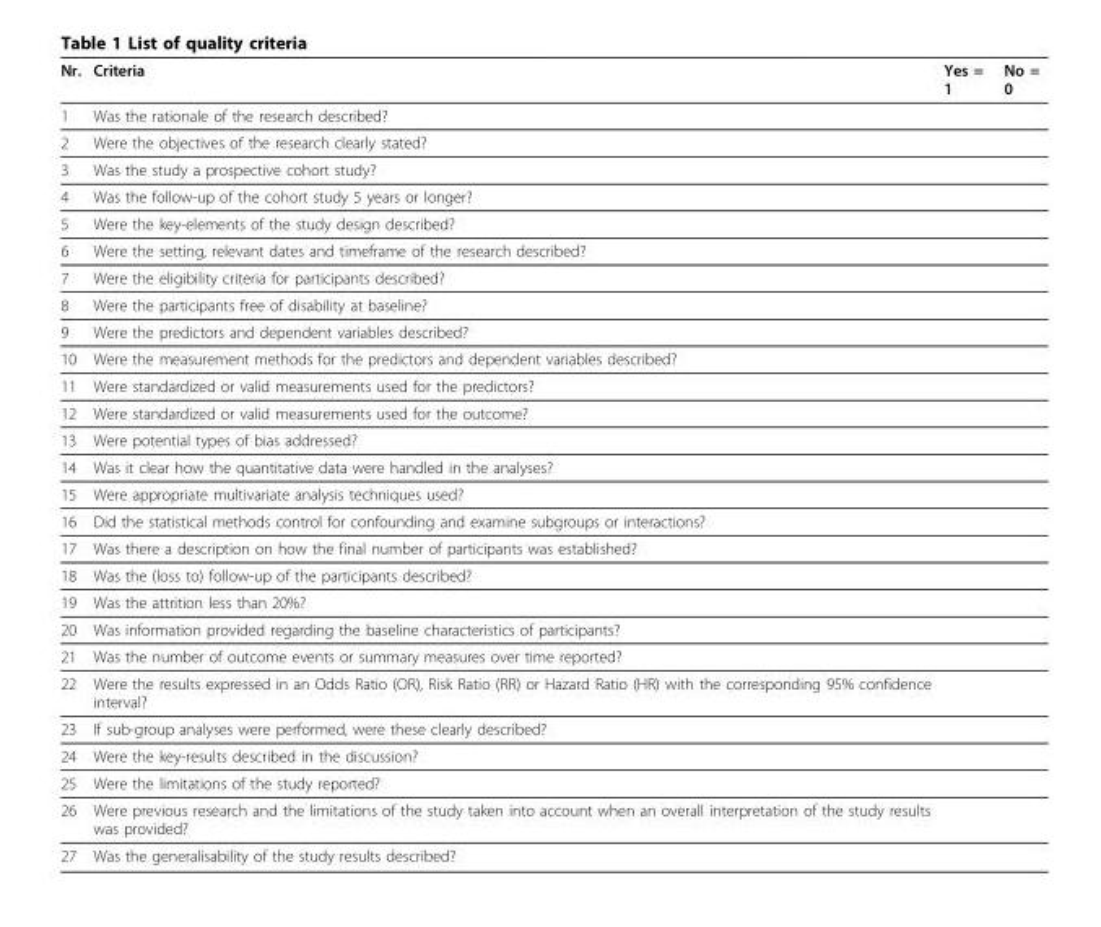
<table><thead><tr><td>Nr.</td><td>Criteria</td><td>Yes = 1</td><td>No = 0</td></tr></thead><tbody><tr><td>1</td><td>Was the rationale of the research described?</td><td></td><td></td></tr><tr><td>2</td><td>Were the objectives of the research clearly stated?</td><td></td><td></td></tr><tr><td>3</td><td>Was the study a prospective cohort study?</td><td></td><td></td></tr><tr><td>4</td><td>Was the follow-up of the cohort study 5 years or longer?</td><td></td><td></td></tr><tr><td>5</td><td>Were the key-elements of the study design described?</td><td></td><td></td></tr><tr><td>6</td><td>Were the setting, relevant dates and timeframe of the research described?</td><td></td><td></td></tr><tr><td>7</td><td>Were the eligibility criteria for participants described?</td><td></td><td></td></tr><tr><td>8</td><td>Were the participants free of disability at baseline?</td><td></td><td></td></tr><tr><td>9</td><td>Were the predictors and dependent variables described?</td><td></td><td></td></tr><tr><td>10</td><td>Were the measurement methods for the predictors and dependent variables described?</td><td></td><td></td></tr><tr><td>11</td><td>Were standardized or valid measurements used for the predictors?</td><td></td><td></td></tr><tr><td>12</td><td>Were standardized or valid measurements used for the outcome?</td><td></td><td></td></tr><tr><td>13</td><td>Were potential types of bias addressed?</td><td></td><td></td></tr><tr><td>14</td><td>Was it clear how the quantitative data were handled in the analyses?</td><td></td><td></td></tr><tr><td>15</td><td>Were appropriate multivariate analysis techniques used?</td><td></td><td></td></tr><tr><td>16</td><td>Did the statistical methods control for confounding and examine subgroups or interactions?</td><td></td><td></td></tr><tr><td>17</td><td>Was there a description on how the final number of participants was established?</td><td></td><td></td></tr><tr><td>18</td><td>Was the (loss to) follow-up of the participants described?</td><td></td><td></td></tr><tr><td>19</td><td>Was the attrition less than 20%?</td><td></td><td></td></tr><tr><td>20</td><td>Was information provided regarding the baseline characteristics of participants?</td><td></td><td></td></tr><tr><td>21</td><td>Was the number of outcome events or summary measures over time reported?</td><td></td><td></td></tr><tr><td>22</td><td>Were the results expressed in an Odds Ratio (OR), Risk Ratio (RR) or Hazard Ratio (HR) with the corresponding 95% confidence interval?</td><td></td><td></td></tr><tr><td>23</td><td>If sub-group analyses were performed, were these clearly described?</td><td></td><td></td></tr><tr><td>24</td><td>Were the key-results described in the discussion?</td><td></td><td></td></tr><tr><td>25</td><td>Were the limitations of the study reported?</td><td></td><td></td></tr><tr><td>26</td><td>Were previous research and the limitations of the study taken into account when an overall interpretation of the study results was provided?</td><td></td><td></td></tr><tr><td>27</td><td>Was the generalisability of the study results described?</td><td></td><td></td></tr></tbody></table>